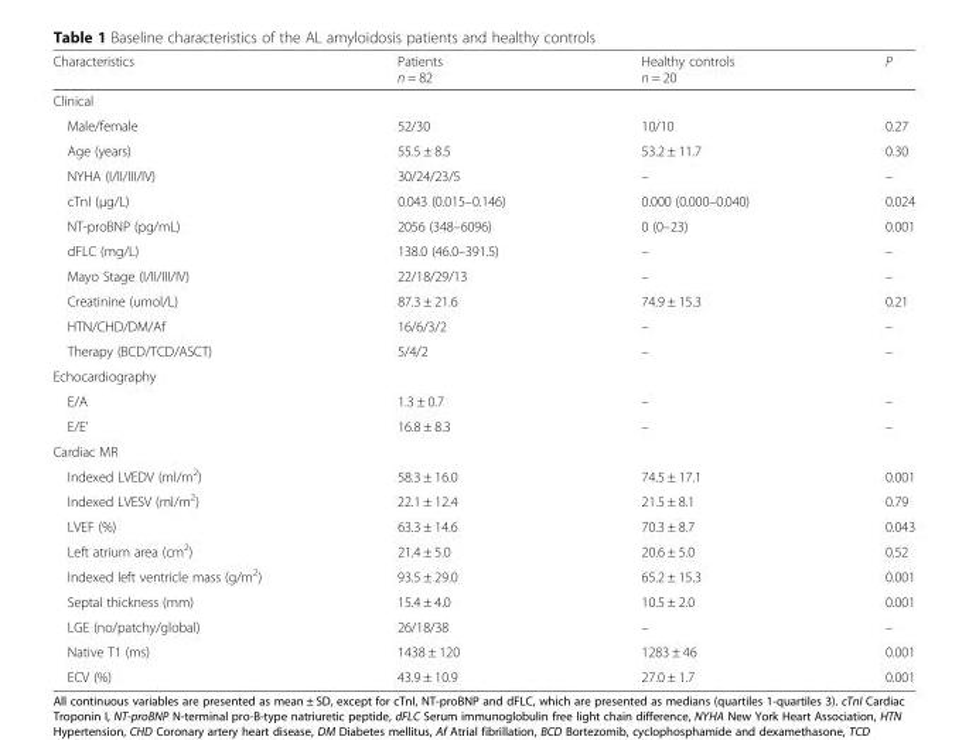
<table><thead><tr><td>Characteristics</td><td>Patients n = 82</td><td>Healthy controls n = 20</td><td>P</td></tr></thead><tbody><tr><td colspan="4">Clinical</td></tr><tr><td>Male/female</td><td>52/30</td><td>10/10</td><td>0.27</td></tr><tr><td>Age (years)</td><td>55.5 ± 8.5</td><td>53.2 ± 11.7</td><td>0.30</td></tr><tr><td>NYHA (I/II/III/IV)</td><td>30/24/23/5</td><td>–</td><td>–</td></tr><tr><td>cTnI (μg/L)</td><td>0.043 (0.015–0.146)</td><td>0.000 (0.000–0.040)</td><td>0.024</td></tr><tr><td>NT-proBNP (pg/mL)</td><td>2056 (348–6096)</td><td>0 (0–23)</td><td>0.001</td></tr><tr><td>dFLC (mg/L)</td><td>138.0 (46.0–391.5)</td><td>–</td><td>–</td></tr><tr><td>Mayo Stage (I/II/III/IV)</td><td>22/18/29/13</td><td>–</td><td>–</td></tr><tr><td>Creatinine (umol/L)</td><td>87.3 ± 21.6</td><td>74.9 ± 15.3</td><td>0.21</td></tr><tr><td>HTN/CHD/DM/Af</td><td>16/6/3/2</td><td>–</td><td>–</td></tr><tr><td>Therapy (BCD/TCD/ASCT)</td><td>5/4/2</td><td>–</td><td>–</td></tr><tr><td colspan="4">Echocardiography</td></tr><tr><td>E/A</td><td>1.3 ± 0.7</td><td>–</td><td>–</td></tr><tr><td>E/E’</td><td>16.8 ± 8.3</td><td>–</td><td>–</td></tr><tr><td colspan="4">Cardiac MR</td></tr><tr><td>Indexed LVEDV (ml/m<sup>2</sup>)</td><td>58.3 ± 16.0</td><td>74.5 ± 17.1</td><td>0.001</td></tr><tr><td>Indexed LVESV (ml/m<sup>2</sup>)</td><td>22.1 ± 12.4</td><td>21.5 ± 8.1</td><td>0.79</td></tr><tr><td>LVEF (%)</td><td>63.3 ± 14.6</td><td>70.3 ± 8.7</td><td>0.043</td></tr><tr><td>Left atrium area (cm<sup>2</sup>)</td><td>21.4 ± 5.0</td><td>20.6 ± 5.0</td><td>0.52</td></tr><tr><td>Indexed left ventricle mass (g/m<sup>2</sup>)</td><td>93.5 ± 29.0</td><td>65.2 ± 15.3</td><td>0.001</td></tr><tr><td>Septal thickness (mm)</td><td>15.4 ± 4.0</td><td>10.5 ± 2.0</td><td>0.001</td></tr><tr><td>LGE (no/patchy/global)</td><td>26/18/38</td><td>–</td><td>–</td></tr><tr><td>Native T1 (ms)</td><td>1438 ± 120</td><td>1283 ± 46</td><td>0.001</td></tr><tr><td>ECV (%)</td><td>43.9 ± 10.9</td><td>27.0 ± 1.7</td><td>0.001</td></tr></tbody></table>